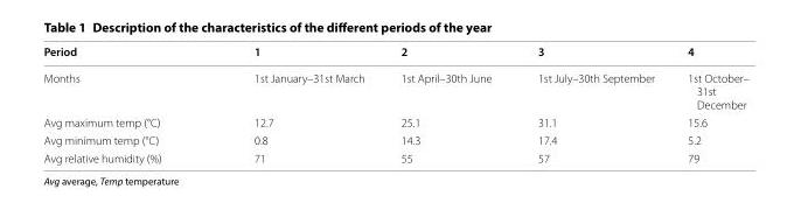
<table><thead><tr><td>Period</td><td>1</td><td>2</td><td>3</td><td>4</td></tr></thead><tbody><tr><td>Months</td><td>1st January–31st March</td><td>1st April–30th June</td><td>1st July–30th September</td><td>1st October– 31st December</td></tr><tr><td>Avg maximum temp (°C)</td><td>12.7</td><td>25.1</td><td>31.1</td><td>15.6</td></tr><tr><td>Avg minimum temp (°C)</td><td>0.8</td><td>14.3</td><td>17.4</td><td>5.2</td></tr><tr><td>Avg relative humidity (%)</td><td>71</td><td>55</td><td>57</td><td>79</td></tr></tbody></table>